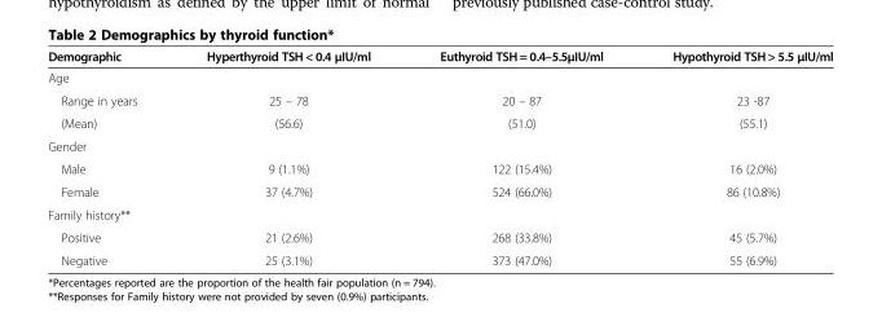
<table><thead><tr><td>Demographic</td><td>Hyperthyroid TSH &lt; 0.4 μIU/ml</td><td>Euthyroid TSH = 0.4–5.5μIU/ml</td><td>Hypothyroid TSH &gt; 5.5 μIU/ml</td></tr></thead><tbody><tr><td colspan="4">Age</td></tr><tr><td>Range in years</td><td>25 – 78</td><td>20 – 87</td><td>23 -87</td></tr><tr><td>(Mean)</td><td>(56.6)</td><td>(51.0)</td><td>(55.1)</td></tr><tr><td colspan="4">Gender</td></tr><tr><td>Male</td><td>9 (1.1%)</td><td>122 (15.4%)</td><td>16 (2.0%)</td></tr><tr><td>Female</td><td>37 (4.7%)</td><td>524 (66.0%)</td><td>86 (10.8%)</td></tr><tr><td colspan="4">Family history**</td></tr><tr><td>Positive</td><td>21 (2.6%)</td><td>268 (33.8%)</td><td>45 (5.7%)</td></tr><tr><td>Negative</td><td>25 (3.1%)</td><td>373 (47.0%)</td><td>55 (6.9%)</td></tr></tbody></table>